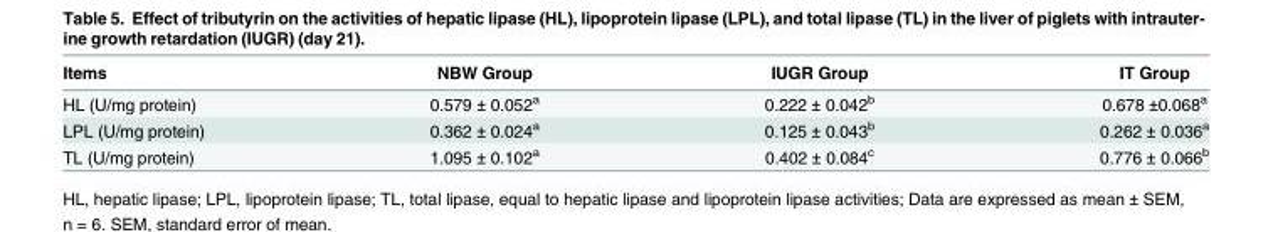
<table><thead><tr><td>Items</td><td>NBW Group</td><td>IUGR Group</td><td>IT Group</td></tr></thead><tbody><tr><td>HL (U/mg protein)</td><td>0.579 ± 0.052<sup>a</sup></td><td>0.222 ± 0.042<sup>b</sup></td><td>0.678 ±0.068<sup>a</sup></td></tr><tr><td>LPL (U/mg protein)</td><td>0.362 ± 0.024<sup>a</sup></td><td>0.125 ± 0.043<sup>b</sup></td><td>0.262 ± 0.036<sup>a</sup></td></tr><tr><td>TL (U/mg protein)</td><td>1.095 ± 0.102<sup>a</sup></td><td>0.402 ± 0.084<sup>c</sup></td><td>0.776 ± 0.066<sup>b</sup></td></tr></tbody></table>